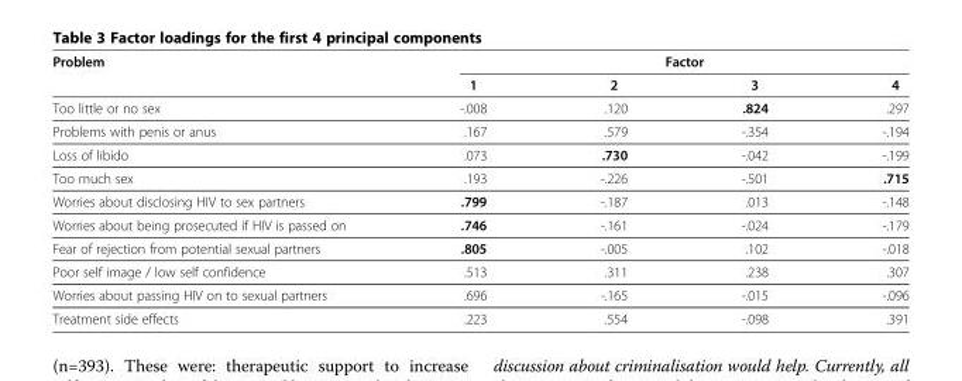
<table><thead><tr><td rowspan="2">Problem</td><td colspan="4">Factor</td></tr><tr><td>1</td><td>2</td><td>3</td><td>4</td></tr></thead><tbody><tr><td>Too little or no sex</td><td>-.008</td><td>.120</td><td>.824</td><td>.297</td></tr><tr><td>Problems with penis or anus</td><td>.167</td><td>.579</td><td>-.354</td><td>-.194</td></tr><tr><td>Loss of libido</td><td>.073</td><td>.730</td><td>-.042</td><td>-.199</td></tr><tr><td>Too much sex</td><td>.193</td><td>-.226</td><td>-.501</td><td>.715</td></tr><tr><td>Worries about disclosing HIV to sex partners</td><td>.799</td><td>-.187</td><td>.013</td><td>-.148</td></tr><tr><td>Worries about being prosecuted if HIV is passed on</td><td>.746</td><td>-.161</td><td>-.024</td><td>-.179</td></tr><tr><td>Fear of rejection from potential sexual partners</td><td>.805</td><td>-.005</td><td>.102</td><td>-.018</td></tr><tr><td>Poor self image / low self confidence</td><td>.513</td><td>.311</td><td>.238</td><td>.307</td></tr><tr><td>Worries about passing HIV on to sexual partners</td><td>.696</td><td>-.165</td><td>-.015</td><td>-.096</td></tr><tr><td>Treatment side effects</td><td>.223</td><td>.554</td><td>-.098</td><td>.391</td></tr></tbody></table>